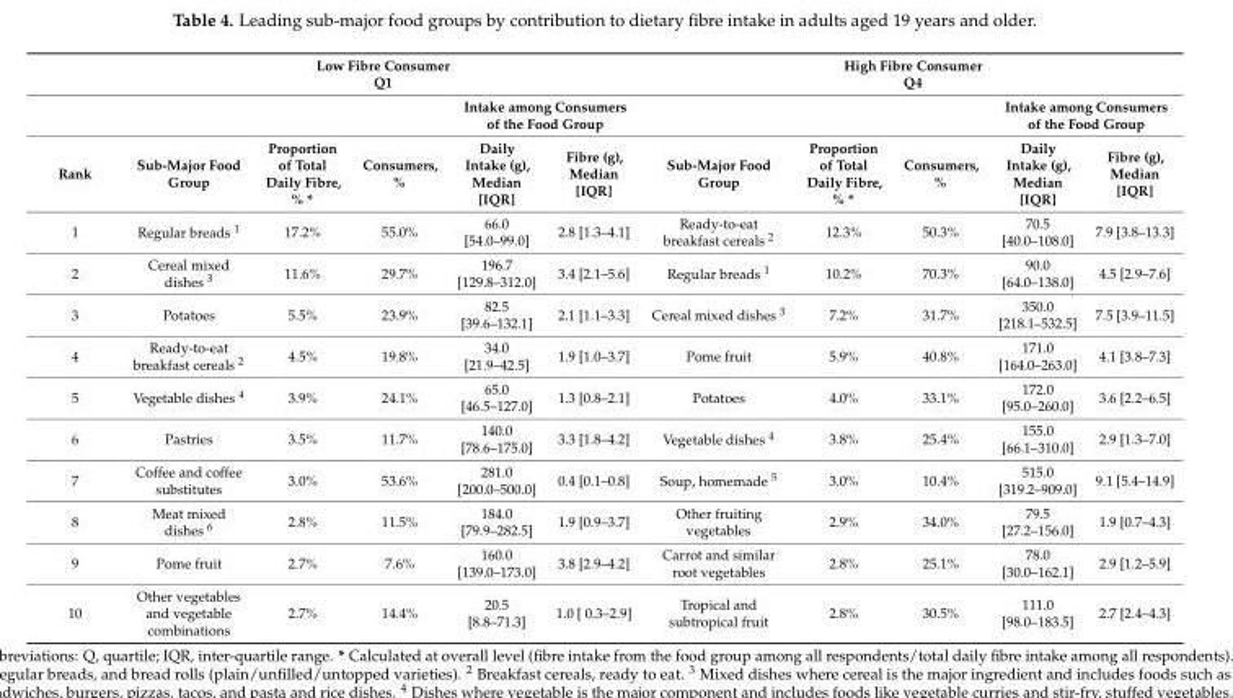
<table><thead><tr><td rowspan="3">Rank</td><td colspan="5">Low Fibre Consumer Q1</td><td colspan="5">High Fibre Consumer Q4</td></tr><tr><td rowspan="2">Sub-Major Food Group</td><td rowspan="2">Proportion of Total Daily Fibre, % *</td><td rowspan="2">Consumers, %</td><td colspan="2">Intake among Consumers of the Food Group</td><td rowspan="2">Sub-Major Food Group</td><td rowspan="2">Proportion of Total Daily Fibre, % *</td><td rowspan="2">Consumers, %</td><td colspan="2">Intake among Consumers of the Food Group</td></tr><tr><td>Daily Intake (g), Median [IQR]</td><td>Fibre (g), Median [IQR]</td><td>Daily Intake (g), Median [IQR]</td><td>Fibre (g), Median [IQR]</td></tr></thead><tbody><tr><td>1</td><td>Regular breads <sup>1</sup></td><td>17.2%</td><td>55.0%</td><td>66.0 [54.0–99.0]</td><td>2.8 [1.3–4.1]</td><td>Ready-to-eat breakfast cereals <sup>2</sup></td><td>12.3%</td><td>50.3%</td><td>70.5 [40.0–108.0]</td><td>7.9 [3.8–13.3]</td></tr><tr><td>2</td><td>Cereal mixed dishes <sup>3</sup></td><td>11.6%</td><td>29.7%</td><td>196.7 [129.8–312.0]</td><td>3.4 [2.1–5.6]</td><td>Regular breads <sup>1</sup></td><td>10.2%</td><td>70.3%</td><td>90.0 [64.0–138.0]</td><td>4.5 [2.9–7.6]</td></tr><tr><td>3</td><td>Potatoes</td><td>5.5%</td><td>23.9%</td><td>82.5 [39.6–132.1]</td><td>2.1 [1.1–3.3]</td><td>Cereal mixed dishes <sup>3</sup></td><td>7.2%</td><td>31.7%</td><td>350.0 [218.1–532.5]</td><td>7.5 [3.9–11.5]</td></tr><tr><td>4</td><td>Ready-to-eat breakfast cereals <sup>2</sup></td><td>4.5%</td><td>19.8%</td><td>34.0 [21.9–42.5]</td><td>1.9 [1.0–3.7]</td><td>Pome fruit</td><td>5.9%</td><td>40.8%</td><td>171.0 [164.0–263.0]</td><td>4.1 [3.8–7.3]</td></tr><tr><td>5</td><td>Vegetable dishes <sup>4</sup></td><td>3.9%</td><td>24.1%</td><td>65.0 [46.5–127.0]</td><td>1.3 [0.8–2.1]</td><td>Potatoes</td><td>4.0%</td><td>33.1%</td><td>172.0 [95.0–260.0]</td><td>3.6 [2.2–6.5]</td></tr><tr><td>6</td><td>Pastries</td><td>3.5%</td><td>11.7%</td><td>140.0 [78.6–175.0]</td><td>3.3 [1.8–4.2]</td><td>Vegetable dishes <sup>4</sup></td><td>3.8%</td><td>25.4%</td><td>155.0 [66.1–310.0]</td><td>2.9 [1.3–7.0]</td></tr><tr><td>7</td><td>Coffee and coffee substitutes</td><td>3.0%</td><td>53.6%</td><td>281.0 [200.0–500.0]</td><td>0.4 [0.1–0.8]</td><td>Soup, homemade <sup>5</sup></td><td>3.0%</td><td>10.4%</td><td>515.0 [319.2–909.0]</td><td>9.1 [5.4–14.9]</td></tr><tr><td>8</td><td>Meat mixed dishes <sup>6</sup></td><td>2.8%</td><td>11.5%</td><td>184.0 [79.9–282.5]</td><td>1.9 [0.9–3.7]</td><td>Other fruiting vegetables</td><td>2.9%</td><td>34.0%</td><td>79.5 [27.2–156.0]</td><td>1.9 [0.7–4.3]</td></tr><tr><td>9</td><td>Pome fruit</td><td>2.7%</td><td>7.6%</td><td>160.0 [139.0–173.0]</td><td>3.8 [2.9–4.2]</td><td>Carrot and similar root vegetables</td><td>2.8%</td><td>25.1%</td><td>78.0 [30.0–162.1]</td><td>2.9 [1.2–5.9]</td></tr><tr><td>10</td><td>Other vegetables and vegetable combinations</td><td>2.7%</td><td>14.4%</td><td>20.5 [8.8–71.3]</td><td>1.0 [ 0.3–2.9]</td><td>Tropical and subtropical fruit</td><td>2.8%</td><td>30.5%</td><td>111.0 [98.0–183.5]</td><td>2.7 [2.4–4.3]</td></tr></tbody></table>